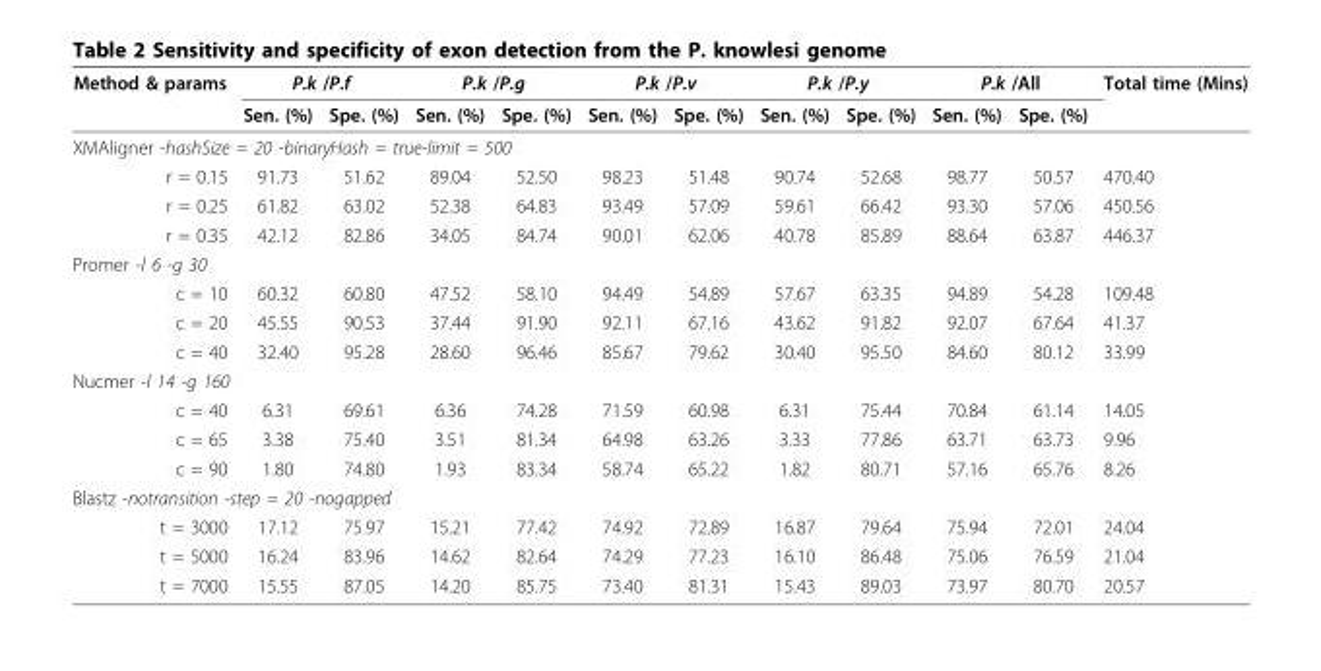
<table><thead><tr><td rowspan="2">Method &amp; params</td><td colspan="2">P.k /P.f</td><td colspan="2">P.k /P.g</td><td colspan="2">P.k /P.v</td><td colspan="2">P.k /P.y</td><td colspan="2">P.k /All</td><td rowspan="2">Total time (Mins)</td></tr><tr><td>Sen. (%)</td><td>Spe. (%)</td><td>Sen. (%)</td><td>Spe. (%)</td><td>Sen. (%)</td><td>Spe. (%)</td><td>Sen. (%)</td><td>Spe. (%)</td><td>Sen. (%)</td><td>Spe. (%)</td></tr></thead><tbody><tr><td colspan="12">XMAligner -hashSize = 20 -binaryHash = true-limit = 500</td></tr><tr><td>r = 0.15</td><td>91.73</td><td>51.62</td><td>89.04</td><td>52.50</td><td>98.23</td><td>51.48</td><td>90.74</td><td>52.68</td><td>98.77</td><td>50.57</td><td>470.40</td></tr><tr><td>r = 0.25</td><td>61.82</td><td>63.02</td><td>52.38</td><td>64.83</td><td>93.49</td><td>57.09</td><td>59.61</td><td>66.42</td><td>93.30</td><td>57.06</td><td>450.56</td></tr><tr><td>r = 0.35</td><td>42.12</td><td>82.86</td><td>34.05</td><td>84.74</td><td>90.01</td><td>62.06</td><td>40.78</td><td>85.89</td><td>88.64</td><td>63.87</td><td>446.37</td></tr><tr><td colspan="12">Promer -l 6 -g 30</td></tr><tr><td>c = 10</td><td>60.32</td><td>60.80</td><td>47.52</td><td>58.10</td><td>94.49</td><td>54.89</td><td>57.67</td><td>63.35</td><td>94.89</td><td>54.28</td><td>109.48</td></tr><tr><td>c = 20</td><td>45.55</td><td>90.53</td><td>37.44</td><td>91.90</td><td>92.11</td><td>67.16</td><td>43.62</td><td>91.82</td><td>92.07</td><td>67.64</td><td>41.37</td></tr><tr><td>c = 40</td><td>32.40</td><td>95.28</td><td>28.60</td><td>96.46</td><td>85.67</td><td>79.62</td><td>30.40</td><td>95.50</td><td>84.60</td><td>80.12</td><td>33.99</td></tr><tr><td colspan="12">Nucmer -l 14 -g 160</td></tr><tr><td>c = 40</td><td>6.31</td><td>69.61</td><td>6.36</td><td>74.28</td><td>71.59</td><td>60.98</td><td>6.31</td><td>75.44</td><td>70.84</td><td>61.14</td><td>14.05</td></tr><tr><td>c = 65</td><td>3.38</td><td>75.40</td><td>3.51</td><td>81.34</td><td>64.98</td><td>63.26</td><td>3.33</td><td>77.86</td><td>63.71</td><td>63.73</td><td>9.96</td></tr><tr><td>c = 90</td><td>1.80</td><td>74.80</td><td>1.93</td><td>83.34</td><td>58.74</td><td>65.22</td><td>1.82</td><td>80.71</td><td>57.16</td><td>65.76</td><td>8.26</td></tr><tr><td colspan="12">Blastz -notransition -step = 20 -nogapped</td></tr><tr><td>t = 3000</td><td>17.12</td><td>75.97</td><td>15.21</td><td>77.42</td><td>74.92</td><td>72.89</td><td>16.87</td><td>79.64</td><td>75.94</td><td>72.01</td><td>24.04</td></tr><tr><td>t = 5000</td><td>16.24</td><td>83.96</td><td>14.62</td><td>82.64</td><td>74.29</td><td>77.23</td><td>16.10</td><td>86.48</td><td>75.06</td><td>76.59</td><td>21.04</td></tr><tr><td>t = 7000</td><td>15.55</td><td>87.05</td><td>14.20</td><td>85.75</td><td>73.40</td><td>81.31</td><td>15.43</td><td>89.03</td><td>73.97</td><td>80.70</td><td>20.57</td></tr></tbody></table>